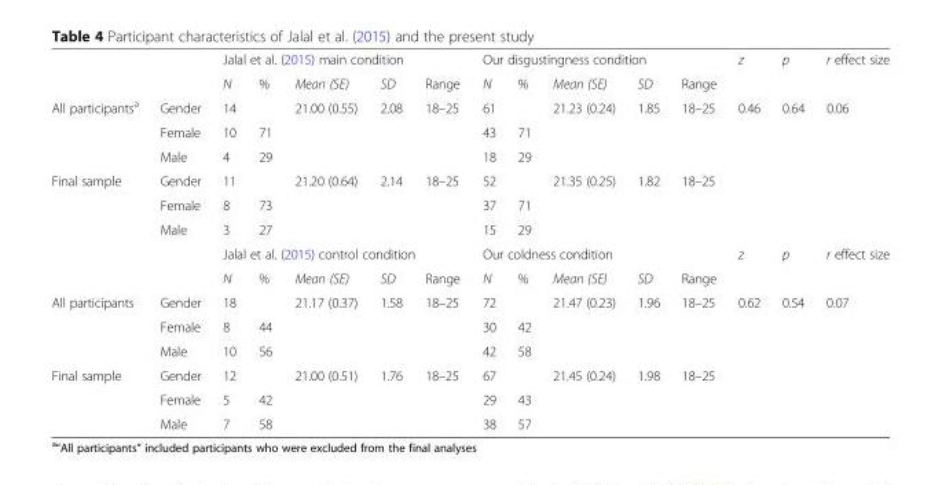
<table><thead><tr><td rowspan="2"></td><td rowspan="2"></td><td colspan="5">Jalal et al. (2015) main condition</td><td colspan="5">Our disgustingness condition</td><td rowspan="2">z</td><td rowspan="2">p</td><td rowspan="2">r effect size</td></tr><tr><td>N</td><td>%</td><td>Mean (SE)</td><td>SD</td><td>Range</td><td>N</td><td>%</td><td>Mean (SE)</td><td>SD</td><td>Range</td></tr></thead><tbody><tr><td rowspan="3">All participants<sup>a</sup></td><td>Gender</td><td>14</td><td></td><td>21.00 (0.55)</td><td>2.08</td><td>18–25</td><td>61</td><td></td><td>21.23 (0.24)</td><td>1.85</td><td>18–25</td><td>0.46</td><td>0.64</td><td>0.06</td></tr><tr><td>Female</td><td>10</td><td>71</td><td></td><td></td><td></td><td>43</td><td>71</td><td></td><td></td><td></td><td></td><td></td><td></td></tr><tr><td>Male</td><td>4</td><td>29</td><td></td><td></td><td></td><td>18</td><td>29</td><td></td><td></td><td></td><td></td><td></td><td></td></tr><tr><td rowspan="5">Final sample</td><td>Gender</td><td>11</td><td></td><td>21.20 (0.64)</td><td>2.14</td><td>18–25</td><td>52</td><td></td><td>21.35 (0.25)</td><td>1.82</td><td>18–25</td><td></td><td></td><td></td></tr><tr><td>Female</td><td>8</td><td>73</td><td></td><td></td><td></td><td>37</td><td>71</td><td></td><td></td><td></td><td></td><td></td><td></td></tr><tr><td>Male</td><td>3</td><td>27</td><td></td><td></td><td></td><td>15</td><td>29</td><td></td><td></td><td></td><td></td><td></td><td></td></tr><tr><td rowspan="2"></td><td colspan="5">Jalal et al. (2015) control condition</td><td colspan="5">Our coldness condition</td><td>z</td><td>p</td><td>r effect size</td></tr><tr><td>N</td><td>%</td><td>Mean (SE)</td><td>SD</td><td>Range</td><td>N</td><td>%</td><td>Mean (SE)</td><td>SD</td><td>Range</td><td></td><td></td><td></td></tr><tr><td rowspan="3">All participants</td><td>Gender</td><td>18</td><td></td><td>21.17 (0.37)</td><td>1.58</td><td>18–25</td><td>72</td><td></td><td>21.47 (0.23)</td><td>1.96</td><td>18–25</td><td>0.62</td><td>0.54</td><td>0.07</td></tr><tr><td>Female</td><td>8</td><td>44</td><td></td><td></td><td></td><td>30</td><td>42</td><td></td><td></td><td></td><td></td><td></td><td></td></tr><tr><td>Male</td><td>10</td><td>56</td><td></td><td></td><td></td><td>42</td><td>58</td><td></td><td></td><td></td><td></td><td></td><td></td></tr><tr><td rowspan="3">Final sample</td><td>Gender</td><td>12</td><td></td><td>21.00 (0.51)</td><td>1.76</td><td>18–25</td><td>67</td><td></td><td>21.45 (0.24)</td><td>1.98</td><td>18–25</td><td></td><td></td><td></td></tr><tr><td>Female</td><td>5</td><td>42</td><td></td><td></td><td></td><td>29</td><td>43</td><td></td><td></td><td></td><td></td><td></td><td></td></tr><tr><td>Male</td><td>7</td><td>58</td><td></td><td></td><td></td><td>38</td><td>57</td><td></td><td></td><td></td><td></td><td></td><td></td></tr></tbody></table>